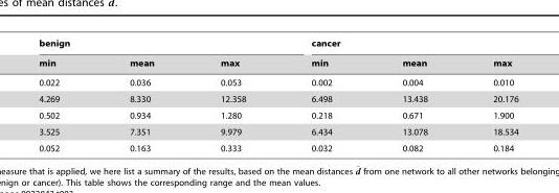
<table><thead><tr><td colspan="3">benign</td><td colspan="3">cancer</td></tr><tr><td>min</td><td>mean</td><td>max</td><td>min</td><td>mean</td><td>max</td></tr></thead><tbody><tr><td>0.022</td><td>0.036</td><td>0.053</td><td>0.002</td><td>0.004</td><td>0.010</td></tr><tr><td>4.269</td><td>8.330</td><td>12.358</td><td>6.498</td><td>13.438</td><td>20.176</td></tr><tr><td>0.502</td><td>0.934</td><td>1.280</td><td>0.218</td><td>0.671</td><td>1.900</td></tr><tr><td>3.525</td><td>7.351</td><td>9.979</td><td>6.434</td><td>13.078</td><td>18.534</td></tr><tr><td>0.052</td><td>0.163</td><td>0.333</td><td>0.032</td><td>0.082</td><td>0.184</td></tr></tbody></table>